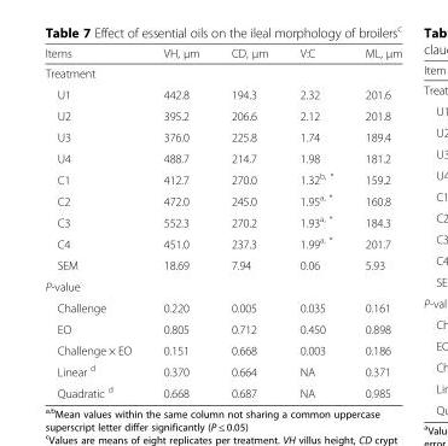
<table><thead><tr><td>Items</td><td>VH, μm</td><td>CD, μm</td><td>V:C</td><td>ML, μm</td></tr></thead><tbody><tr><td colspan="5">Treatment</td></tr><tr><td>U1</td><td>442.8</td><td>194.3</td><td>2.32</td><td>201.6</td></tr><tr><td>U2</td><td>395.2</td><td>206.6</td><td>2.12</td><td>201.8</td></tr><tr><td>U3</td><td>376.0</td><td>225.8</td><td>1.74</td><td>189.4</td></tr><tr><td>U4</td><td>488.7</td><td>214.7</td><td>1.98</td><td>181.2</td></tr><tr><td>C1</td><td>412.7</td><td>270.0</td><td>1.32<sup>b, *</sup></td><td>159.2</td></tr><tr><td>C2</td><td>472.0</td><td>245.0</td><td>1.95<sup>a, *</sup></td><td>160.8</td></tr><tr><td>C3</td><td>552.3</td><td>270.2</td><td>1.93<sup>a, *</sup></td><td>184.3</td></tr><tr><td>C4</td><td>451.0</td><td>237.3</td><td>1.99<sup>a, *</sup></td><td>201.7</td></tr><tr><td>SEM</td><td>18.69</td><td>7.94</td><td>0.06</td><td>5.93</td></tr><tr><td colspan="5">P-value</td></tr><tr><td>Challenge</td><td>0.220</td><td>0.005</td><td>0.035</td><td>0.161</td></tr><tr><td>EO</td><td>0.805</td><td>0.712</td><td>0.450</td><td>0.898</td></tr><tr><td>Challenge × EO</td><td>0.151</td><td>0.668</td><td>0.003</td><td>0.186</td></tr><tr><td>Linear <sup>d</sup></td><td>0.370</td><td>0.664</td><td>NA</td><td>0.371</td></tr><tr><td>Quadratic <sup>d</sup></td><td>0.668</td><td>0.687</td><td>NA</td><td>0.985</td></tr></tbody></table>